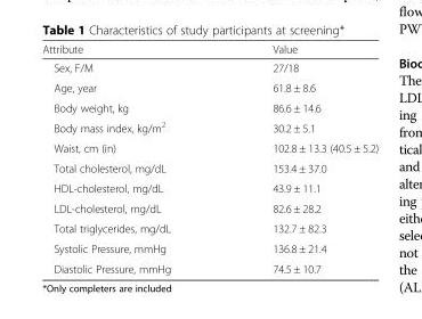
<table><thead><tr><td>Attribute</td><td>Value</td></tr></thead><tbody><tr><td>Sex, F/M</td><td>27/18</td></tr><tr><td>Age, year</td><td>61.8 ± 8.6</td></tr><tr><td>Body weight, kg</td><td>86.6 ± 14.6</td></tr><tr><td>Body mass index, kg/m<sup>2</sup></td><td>30.2 ± 5.1</td></tr><tr><td>Waist, cm (in)</td><td>102.8 ± 13.3 (40.5 ± 5.2)</td></tr><tr><td>Total cholesterol, mg/dL</td><td>153.4 ± 37.0</td></tr><tr><td>HDL-cholesterol, mg/dL</td><td>43.9 ± 11.1</td></tr><tr><td>LDL-cholesterol, mg/dL</td><td>82.6 ± 28.2</td></tr><tr><td>Total triglycerides, mg/dL</td><td>132.7 ± 82.3</td></tr><tr><td>Systolic Pressure, mmHg</td><td>136.8 ± 21.4</td></tr><tr><td>Diastolic Pressure, mmHg</td><td>74.5 ± 10.7</td></tr></tbody></table>